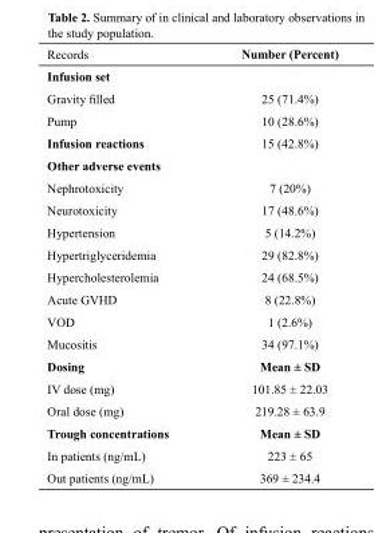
<table><thead><tr><td rowspan="2">Records Infusion set</td><td rowspan="2">Number (Percent)</td></tr><tr></tr></thead><tbody><tr><td>Gravity filled</td><td>25 (71.4%)</td></tr><tr><td>Pump</td><td>10 (28.6%)</td></tr><tr><td>Infusion reactions</td><td>15 (42.8%)</td></tr><tr><td colspan="2">Other adverse events</td></tr><tr><td>Nephrotoxicity</td><td>7 (20%)</td></tr><tr><td>Neurotoxicity</td><td>17 (48.6%)</td></tr><tr><td>Hypertension</td><td>5 (14.2%)</td></tr><tr><td>Hypertriglyceridemia</td><td>29 (82.8%)</td></tr><tr><td>Hypercholesterolemia</td><td>24 (68.5%)</td></tr><tr><td>Acute GVHD</td><td>8 (22.8%)</td></tr><tr><td>VOD</td><td>1 (2.6%)</td></tr><tr><td>Mucositis</td><td>34 (97.1%)</td></tr><tr><td>Dosing</td><td>Mean ± SD</td></tr><tr><td>IV dose (mg)</td><td>101.85 ± 22.03</td></tr><tr><td>Oral dose (mg)</td><td>219.28 ± 63.9</td></tr><tr><td>Trough concentrations</td><td>Mean ± SD</td></tr><tr><td>In patients (ng/mL)</td><td>223 ± 65</td></tr><tr><td>Out patients (ng/mL)</td><td>369 ± 234.4</td></tr></tbody></table>